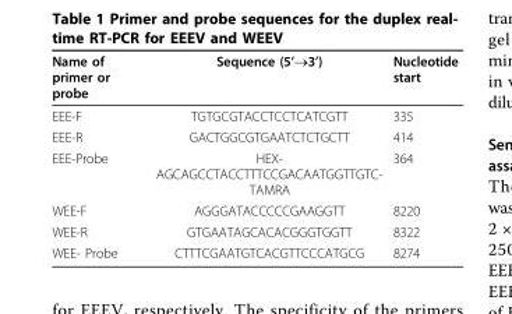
<table><thead><tr><td>Name of primer or probe</td><td>Sequence (5’→3’)</td><td>Nucleotide start</td></tr></thead><tbody><tr><td>EEE-F</td><td>TGTGCGTACCTCCTCATCGTT</td><td>335</td></tr><tr><td>EEE-R</td><td>GACTGGCGTGAATCTCTGCTT</td><td>414</td></tr><tr><td>EEE-Probe</td><td>HEX- AGCAGCCTACCTTTCCGACAATGGTTGTC- TAMRA</td><td>364</td></tr><tr><td>WEE-F</td><td>AGGGATACCCCCGAAGGTT</td><td>8220</td></tr><tr><td>WEE-R</td><td>GTGAATAGCACACGGGTGGTT</td><td>8322</td></tr><tr><td>WEE- Probe</td><td>CTTTCGAATGTCACGTTCCCATGCG</td><td>8274</td></tr></tbody></table>